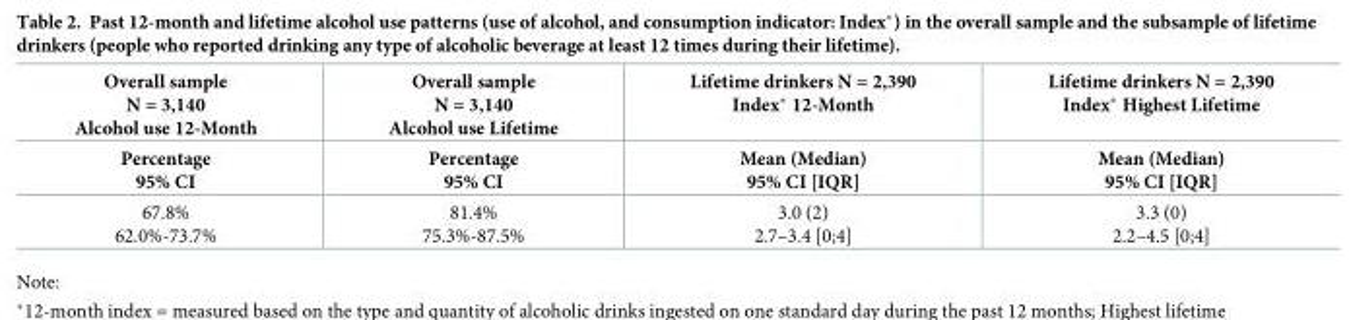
<table><thead><tr><td rowspan="2">Overall sample N = 3,140 Alcohol use 12-Month Percentage 95% CI</td><td rowspan="2">Overall sample N = 3,140 Alcohol use Lifetime Percentage 95% CI</td><td rowspan="2">Lifetime drinkers N = 2,390 Index* 12-Month Mean (Median) 95% CI [IQR]</td><td rowspan="2">Lifetime drinkers N = 2,390 Index* Highest Lifetime Mean (Median) 95% CI [IQR]</td></tr><tr></tr></thead><tbody><tr><td>67.8% 62.0%-73.7%</td><td>81.4% 75.3%-87.5%</td><td>3.0 (2) 2.7–3.4 [0;4]</td><td>3.3 (0) 2.2–4.5 [0;4]</td></tr></tbody></table>